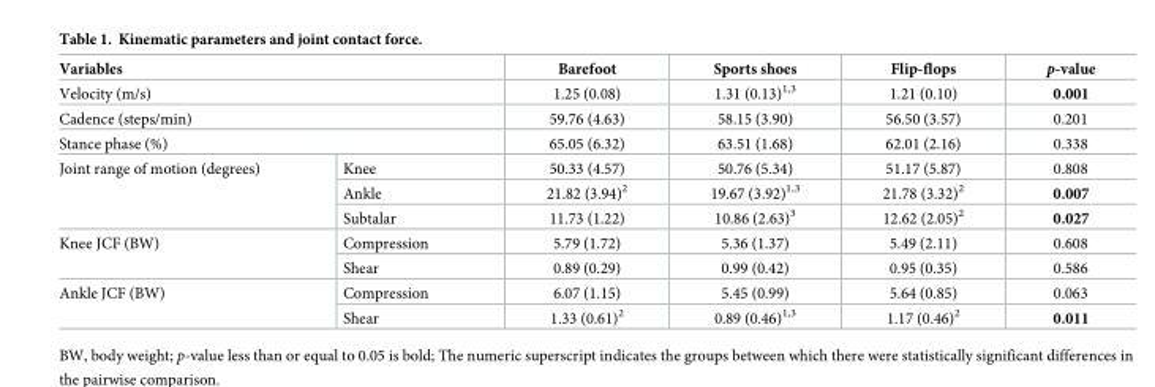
<table><thead><tr><td colspan="2">Variables</td><td>Barefoot</td><td>Sports shoes</td><td>Flip-flops</td><td>p-value</td></tr></thead><tbody><tr><td colspan="2">Velocity (m/s)</td><td>1.25 (0.08)</td><td>1.31 (0.13)<sup>1,3</sup></td><td>1.21 (0.10)</td><td>0.001</td></tr><tr><td colspan="2">Cadence (steps/min)</td><td>59.76 (4.63)</td><td>58.15 (3.90)</td><td>56.50 (3.57)</td><td>0.201</td></tr><tr><td colspan="2">Stance phase (%)</td><td>65.05 (6.32)</td><td>63.51 (1.68)</td><td>62.01 (2.16)</td><td>0.338</td></tr><tr><td rowspan="3">Joint range of motion (degrees)</td><td>Knee</td><td>50.33 (4.57)</td><td>50.76 (5.34)</td><td>51.17 (5.87)</td><td>0.808</td></tr><tr><td>Ankle</td><td>21.82 (3.94)<sup>2</sup></td><td>19.67 (3.92)<sup>1,3</sup></td><td>21.78 (3.32)<sup>2</sup></td><td>0.007</td></tr><tr><td>Subtalar</td><td>11.73 (1.22)</td><td>10.86 (2.63)<sup>3</sup></td><td>12.62 (2.05)<sup>2</sup></td><td>0.027</td></tr><tr><td rowspan="2">Knee JCF (BW)</td><td>Compression</td><td>5.79 (1.72)</td><td>5.36 (1.37)</td><td>5.49 (2.11)</td><td>0.608</td></tr><tr><td>Shear</td><td>0.89 (0.29)</td><td>0.99 (0.42)</td><td>0.95 (0.35)</td><td>0.586</td></tr><tr><td rowspan="2">Ankle JCF (BW)</td><td>Compression</td><td>6.07 (1.15)</td><td>5.45 (0.99)</td><td>5.64 (0.85)</td><td>0.063</td></tr><tr><td>Shear</td><td>1.33 (0.61)<sup>2</sup></td><td>0.89 (0.46)<sup>1,3</sup></td><td>1.17 (0.46)<sup>2</sup></td><td>0.011</td></tr></tbody></table>